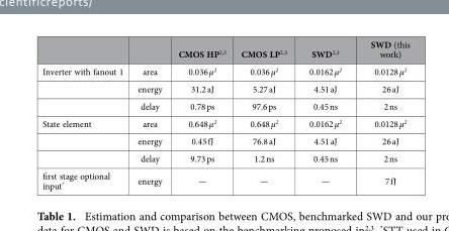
<table><thead><tr><td></td><td></td><td>CMOS HP2,3</td><td>CMOS LP2,3</td><td>SWD2,3</td><td>SWD (this work)</td></tr></thead><tbody><tr><td rowspan="3">Inverter with fanout 1</td><td>area</td><td>0.036 μ<sup>2</sup></td><td>0.036 μ<sup>2</sup></td><td>0.0162 μ<sup>2</sup></td><td>0.0128 μ<sup>2</sup></td></tr><tr><td>energy</td><td>31.2 aJ</td><td>5.27 aJ</td><td>4.51 aJ</td><td>26 aJ</td></tr><tr><td>delay</td><td>0.78 ps</td><td>97.6 ps</td><td>0.45 ns</td><td>2 ns</td></tr><tr><td rowspan="3">State element</td><td>area</td><td>0.648 μ<sup>2</sup></td><td>0.648 μ<sup>2</sup></td><td>0.0162 μ<sup>2</sup></td><td>0.0128 μ<sup>2</sup></td></tr><tr><td>energy</td><td>0.45 fJ</td><td>76.8 aJ</td><td>4.51 aJ</td><td>26 aJ</td></tr><tr><td>delay</td><td>9.73 ps</td><td>1.2 ns</td><td>0.45 ns</td><td>2 ns</td></tr><tr><td>first stage optional input*</td><td>energy</td><td>—</td><td>—</td><td>—</td><td>7 fJ</td></tr></tbody></table>